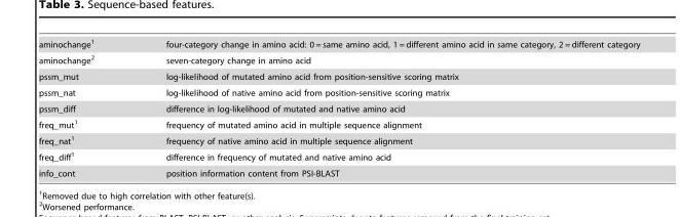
<table><tbody><tr><td>aminochange<sup>1</sup></td><td>four-category change in amino acid: 0 = same amino acid, 1 = different amino acid in same category, 2 = different category</td></tr><tr><td>aminochange<sup>2</sup></td><td>seven-category change in amino acid</td></tr><tr><td>pssm_mut</td><td>log-likelihood of mutated amino acid from position-sensitive scoring matrix</td></tr><tr><td>pssm_nat</td><td>log-likelihood of native amino acid from position-sensitive scoring matrix</td></tr><tr><td>pssm_diff</td><td>difference in log-likelihood of mutated and native amino acid</td></tr><tr><td>freq_mut<sup>1</sup></td><td>frequency of mutated amino acid in multiple sequence alignment</td></tr><tr><td>freq_nat<sup>1</sup></td><td>frequency of native amino acid in multiple sequence alignment</td></tr><tr><td>freq_diff<sup>1</sup></td><td>difference in frequency of mutated and native amino acid</td></tr><tr><td>info_cont</td><td>position information content from PSI-BLAST</td></tr></tbody></table>